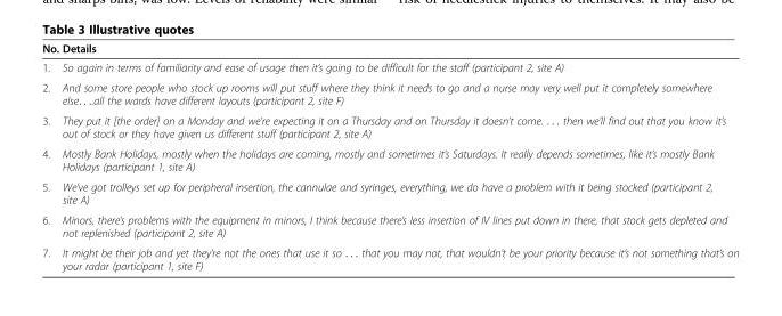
<table><thead><tr><td>No.</td><td>Details</td></tr></thead><tbody><tr><td>1.</td><td>So again in terms of familiarity and ease of usage then it’s going to be difficult for the staff (participant 2, site A)</td></tr><tr><td>2.</td><td>And some store people who stock up rooms will put stuff where they think it needs to go and a nurse may very well put it completely somewhere else. . ..all the wards have different layouts (participant 2, site F)</td></tr><tr><td>3.</td><td>They put it [the order] on a Monday and we’re expecting it on a Thursday and on Thursday it doesn’t come. . . . then we’ll find out that you know it’s out of stock or they have given us different stuff (participant 2, site A)</td></tr><tr><td>4.</td><td>Mostly Bank Holidays, mostly when the holidays are coming, mostly and sometimes it’s Saturdays. It really depends sometimes, like it’s mostly Bank Holidays (participant 1, site A)</td></tr><tr><td>5.</td><td>We’ve got trolleys set up for peripheral insertion, the cannulae and syringes, everything, we do have a problem with it being stocked (participant 2, site A)</td></tr><tr><td>6.</td><td>Minors, there’s problems with the equipment in minors, I think because there’s less insertion of IV lines put down in there, that stock gets depleted and not replenished (participant 2, site A)</td></tr><tr><td>7.</td><td>It might be their job and yet they’re not the ones that use it so . . . that you may not, that wouldn’t be your priority because it’s not something that’s on your radar (participant 1, site F)</td></tr></tbody></table>